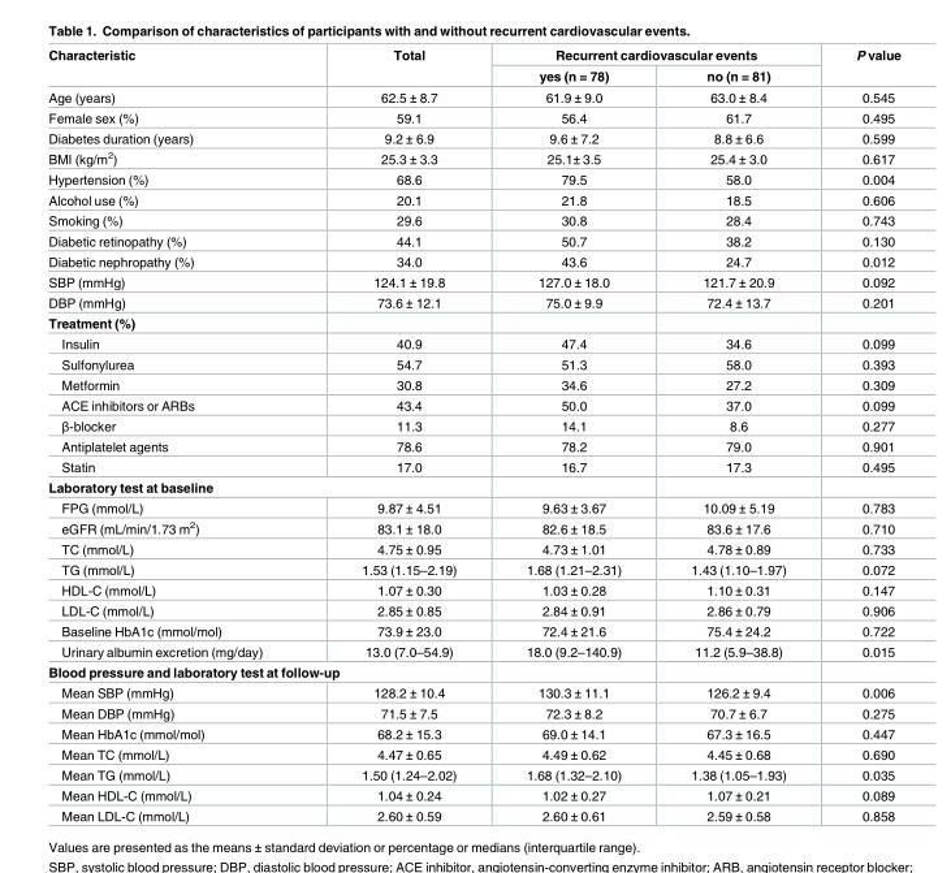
<table><thead><tr><td rowspan="2">Characteristic</td><td rowspan="2">Total</td><td colspan="2">Recurrent cardiovascular events</td><td rowspan="2">P value</td></tr><tr><td>yes (n = 78)</td><td>no (n = 81)</td></tr></thead><tbody><tr><td>Age (years)</td><td>62.5 ± 8.7</td><td>61.9 ± 9.0</td><td>63.0 ± 8.4</td><td>0.545</td></tr><tr><td>Female sex (%)</td><td>59.1</td><td>56.4</td><td>61.7</td><td>0.495</td></tr><tr><td>Diabetes duration (years)</td><td>9.2 ± 6.9</td><td>9.6 ± 7.2</td><td>8.8 ± 6.6</td><td>0.599</td></tr><tr><td>BMI (kg/m<sup>2</sup>)</td><td>25.3 ± 3.3</td><td>25.1± 3.5</td><td>25.4 ± 3.0</td><td>0.617</td></tr><tr><td>Hypertension (%)</td><td>68.6</td><td>79.5</td><td>58.0</td><td>0.004</td></tr><tr><td>Alcohol use (%)</td><td>20.1</td><td>21.8</td><td>18.5</td><td>0.606</td></tr><tr><td>Smoking (%)</td><td>29.6</td><td>30.8</td><td>28.4</td><td>0.743</td></tr><tr><td>Diabetic retinopathy (%)</td><td>44.1</td><td>50.7</td><td>38.2</td><td>0.130</td></tr><tr><td>Diabetic nephropathy (%)</td><td>34.0</td><td>43.6</td><td>24.7</td><td>0.012</td></tr><tr><td>SBP (mmHg)</td><td>124.1 ± 19.8</td><td>127.0 ± 18.0</td><td>121.7 ± 20.9</td><td>0.092</td></tr><tr><td>DBP (mmHg)</td><td>73.6 ± 12.1</td><td>75.0 ± 9.9</td><td>72.4 ± 13.7</td><td>0.201</td></tr><tr><td colspan="5">Treatment (%)</td></tr><tr><td>Insulin</td><td>40.9</td><td>47.4</td><td>34.6</td><td>0.099</td></tr><tr><td>Sulfonylurea</td><td>54.7</td><td>51.3</td><td>58.0</td><td>0.393</td></tr><tr><td>Metformin</td><td>30.8</td><td>34.6</td><td>27.2</td><td>0.309</td></tr><tr><td>ACE inhibitors or ARBs</td><td>43.4</td><td>50.0</td><td>37.0</td><td>0.099</td></tr><tr><td>β-blocker</td><td>11.3</td><td>14.1</td><td>8.6</td><td>0.277</td></tr><tr><td>Antiplatelet agents</td><td>78.6</td><td>78.2</td><td>79.0</td><td>0.901</td></tr><tr><td>Statin</td><td>17.0</td><td>16.7</td><td>17.3</td><td>0.495</td></tr><tr><td colspan="5">Laboratory test at baseline</td></tr><tr><td>FPG (mmol/L)</td><td>9.87 ± 4.51</td><td>9.63 ± 3.67</td><td>10.09 ± 5.19</td><td>0.783</td></tr><tr><td>eGFR (mL/min/1.73 m<sup>2</sup>)</td><td>83.1 ± 18.0</td><td>82.6 ± 18.5</td><td>83.6 ± 17.6</td><td>0.710</td></tr><tr><td>TC (mmol/L)</td><td>4.75 ± 0.95</td><td>4.73 ± 1.01</td><td>4.78 ± 0.89</td><td>0.733</td></tr><tr><td>TG (mmol/L)</td><td>1.53 (1.15–2.19)</td><td>1.68 (1.21–2.31)</td><td>1.43 (1.10–1.97)</td><td>0.072</td></tr><tr><td>HDL-C (mmol/L)</td><td>1.07 ± 0.30</td><td>1.03 ± 0.28</td><td>1.10 ± 0.31</td><td>0.147</td></tr><tr><td>LDL-C (mmol/L)</td><td>2.85 ± 0.85</td><td>2.84 ± 0.91</td><td>2.86 ± 0.79</td><td>0.906</td></tr><tr><td>Baseline HbA1c (mmol/mol)</td><td>73.9 ± 23.0</td><td>72.4 ± 21.6</td><td>75.4 ± 24.2</td><td>0.722</td></tr><tr><td>Urinary albumin excretion (mg/day)</td><td>13.0 (7.0–54.9)</td><td>18.0 (9.2–140.9)</td><td>11.2 (5.9–38.8)</td><td>0.015</td></tr><tr><td colspan="5">Blood pressure and laboratory test at follow-up</td></tr><tr><td>Mean SBP (mmHg)</td><td>128.2 ± 10.4</td><td>130.3 ± 11.1</td><td>126.2 ± 9.4</td><td>0.006</td></tr><tr><td>Mean DBP (mmHg)</td><td>71.5 ± 7.5</td><td>72.3 ± 8.2</td><td>70.7 ± 6.7</td><td>0.275</td></tr><tr><td>Mean HbA1c (mmol/mol)</td><td>68.2 ± 15.3</td><td>69.0 ± 14.1</td><td>67.3 ± 16.5</td><td>0.447</td></tr><tr><td>Mean TC (mmol/L)</td><td>4.47 ± 0.65</td><td>4.49 ± 0.62</td><td>4.45 ± 0.68</td><td>0.690</td></tr><tr><td>Mean TG (mmol/L)</td><td>1.50 (1.24–2.02)</td><td>1.68 (1.32–2.10)</td><td>1.38 (1.05–1.93)</td><td>0.035</td></tr><tr><td>Mean HDL-C (mmol/L)</td><td>1.04 ± 0.24</td><td>1.02 ± 0.27</td><td>1.07 ± 0.21</td><td>0.089</td></tr><tr><td>Mean LDL-C (mmol/L)</td><td>2.60 ± 0.59</td><td>2.60 ± 0.61</td><td>2.59 ± 0.58</td><td>0.858</td></tr></tbody></table>